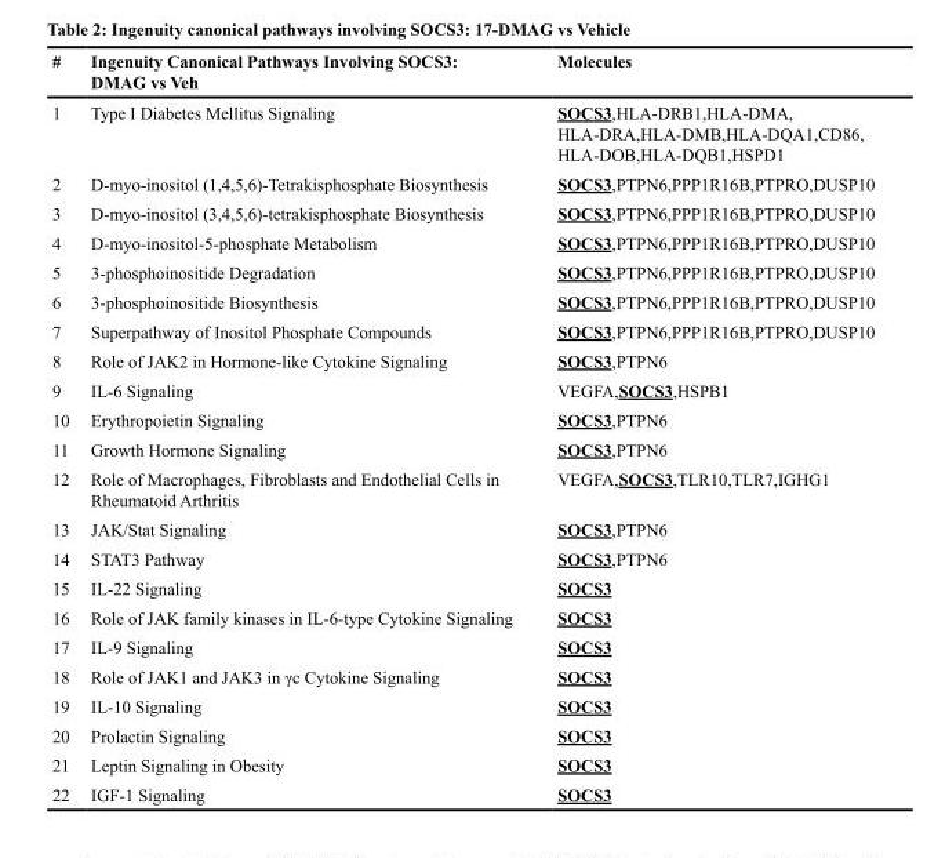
<table><thead><tr><td>#</td><td>Ingenuity Canonical Pathways Involving SOCS3: DMAG vs Veh</td><td>Molecules</td></tr></thead><tbody><tr><td>1</td><td>Type I Diabetes Mellitus Signaling</td><td>SOCS3,HLA-DRB1,HLA-DMA, HLA-DRA,HLA-DMB,HLA-DQA1,CD86, HLA-DOB,HLA-DQB1,HSPD1</td></tr><tr><td>2</td><td>D-myo-inositol (1,4,5,6)-Tetrakisphosphate Biosynthesis</td><td>SOCS3,PTPN6,PPP1R16B,PTPRO,DUSP10</td></tr><tr><td>3</td><td>D-myo-inositol (3,4,5,6)-tetrakisphosphate Biosynthesis</td><td>SOCS3,PTPN6,PPP1R16B,PTPRO,DUSP10</td></tr><tr><td>4</td><td>D-myo-inositol-5-phosphate Metabolism</td><td>SOCS3,PTPN6,PPP1R16B,PTPRO,DUSP10</td></tr><tr><td>5</td><td>3-phosphoinositide Degradation</td><td>SOCS3,PTPN6,PPP1R16B,PTPRO,DUSP10</td></tr><tr><td>6</td><td>3-phosphoinositide Biosynthesis</td><td>SOCS3,PTPN6,PPP1R16B,PTPRO,DUSP10</td></tr><tr><td>7</td><td>Superpathway of Inositol Phosphate Compounds</td><td>SOCS3,PTPN6,PPP1R16B,PTPRO,DUSP10</td></tr><tr><td>8</td><td>Role of JAK2 in Hormone-like Cytokine Signaling</td><td>SOCS3,PTPN6</td></tr><tr><td>9</td><td>IL-6 Signaling</td><td>VEGFA,SOCS3,HSPB1</td></tr><tr><td>10</td><td>Erythropoietin Signaling</td><td>SOCS3,PTPN6</td></tr><tr><td>11</td><td>Growth Hormone Signaling</td><td>SOCS3,PTPN6</td></tr><tr><td>12</td><td>Role of Macrophages, Fibroblasts and Endothelial Cells in Rheumatoid Arthritis</td><td>VEGFA,SOCS3,TLR10,TLR7,IGHG1</td></tr><tr><td>13</td><td>JAK/Stat Signaling</td><td>SOCS3,PTPN6</td></tr><tr><td>14</td><td>STAT3 Pathway</td><td>SOCS3,PTPN6</td></tr><tr><td>15</td><td>IL-22 Signaling</td><td>SOCS3</td></tr><tr><td>16</td><td>Role of JAK family kinases in IL-6-type Cytokine Signaling</td><td>SOCS3</td></tr><tr><td>17</td><td>IL-9 Signaling</td><td>SOCS3</td></tr><tr><td>18</td><td>Role of JAK1 and JAK3 in γc Cytokine Signaling</td><td>SOCS3</td></tr><tr><td>19</td><td>IL-10 Signaling</td><td>SOCS3</td></tr><tr><td>20</td><td>Prolactin Signaling</td><td>SOCS3</td></tr><tr><td>21</td><td>Leptin Signaling in Obesity</td><td>SOCS3</td></tr><tr><td>22</td><td>IGF-1 Signaling</td><td>SOCS3</td></tr></tbody></table>